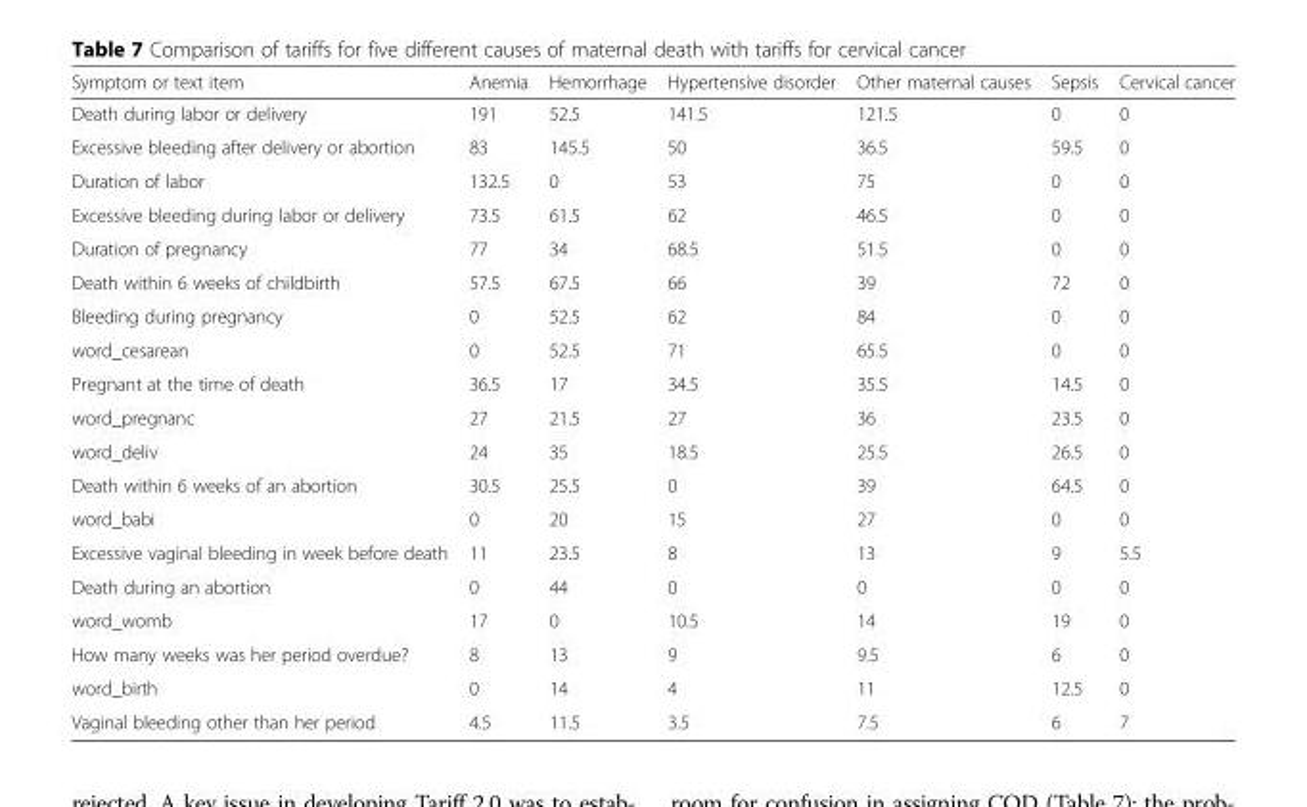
<table><thead><tr><td>Symptom or text item</td><td>Anemia</td><td>Hemorrhage</td><td>Hypertensive disorder</td><td>Other maternal causes</td><td>Sepsis</td><td>Cervical cancer</td></tr></thead><tbody><tr><td>Death during labor or delivery</td><td>191</td><td>52.5</td><td>141.5</td><td>121.5</td><td>0</td><td>0</td></tr><tr><td>Excessive bleeding after delivery or abortion</td><td>83</td><td>145.5</td><td>50</td><td>36.5</td><td>59.5</td><td>0</td></tr><tr><td>Duration of labor</td><td>132.5</td><td>0</td><td>53</td><td>75</td><td>0</td><td>0</td></tr><tr><td>Excessive bleeding during labor or delivery</td><td>73.5</td><td>61.5</td><td>62</td><td>46.5</td><td>0</td><td>0</td></tr><tr><td>Duration of pregnancy</td><td>77</td><td>34</td><td>68.5</td><td>51.5</td><td>0</td><td>0</td></tr><tr><td>Death within 6 weeks of childbirth</td><td>57.5</td><td>67.5</td><td>66</td><td>39</td><td>72</td><td>0</td></tr><tr><td>Bleeding during pregnancy</td><td>0</td><td>52.5</td><td>62</td><td>84</td><td>0</td><td>0</td></tr><tr><td>word_cesarean</td><td>0</td><td>52.5</td><td>71</td><td>65.5</td><td>0</td><td>0</td></tr><tr><td>Pregnant at the time of death</td><td>36.5</td><td>17</td><td>34.5</td><td>35.5</td><td>14.5</td><td>0</td></tr><tr><td>word_pregnanc</td><td>27</td><td>21.5</td><td>27</td><td>36</td><td>23.5</td><td>0</td></tr><tr><td>word_deliv</td><td>24</td><td>35</td><td>18.5</td><td>25.5</td><td>26.5</td><td>0</td></tr><tr><td>Death within 6 weeks of an abortion</td><td>30.5</td><td>25.5</td><td>0</td><td>39</td><td>64.5</td><td>0</td></tr><tr><td>word_babi</td><td>0</td><td>20</td><td>15</td><td>27</td><td>0</td><td>0</td></tr><tr><td>Excessive vaginal bleeding in week before death</td><td>11</td><td>23.5</td><td>8</td><td>13</td><td>9</td><td>5.5</td></tr><tr><td>Death during an abortion</td><td>0</td><td>44</td><td>0</td><td>0</td><td>0</td><td>0</td></tr><tr><td>word_womb</td><td>17</td><td>0</td><td>10.5</td><td>14</td><td>19</td><td>0</td></tr><tr><td>How many weeks was her period overdue?</td><td>8</td><td>13</td><td>9</td><td>9.5</td><td>6</td><td>0</td></tr><tr><td>word_birth</td><td>0</td><td>14</td><td>4</td><td>11</td><td>12.5</td><td>0</td></tr><tr><td>Vaginal bleeding other than her period</td><td>4.5</td><td>11.5</td><td>3.5</td><td>7.5</td><td>6</td><td>7</td></tr></tbody></table>